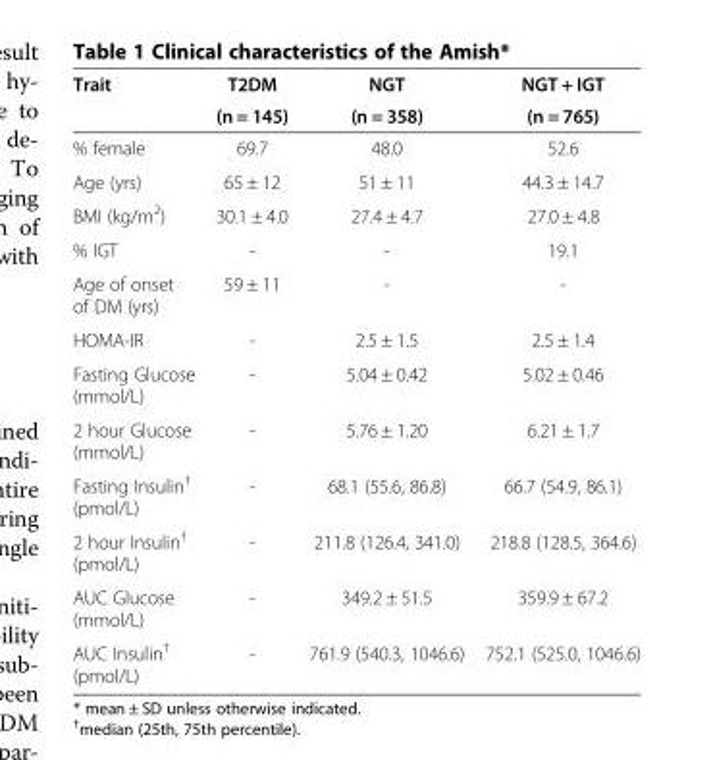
<table><thead><tr><td rowspan="2">Trait</td><td rowspan="2">T2DM (n = 145)</td><td rowspan="2">NGT (n = 358)</td><td rowspan="2">NGT + IGT (n = 765)</td></tr><tr></tr></thead><tbody><tr><td>% female</td><td>69.7</td><td>48.0</td><td>52.6</td></tr><tr><td>Age (yrs)</td><td>65 ± 12</td><td>51 ± 11</td><td>44.3 ± 14.7</td></tr><tr><td>BMI (kg/m<sup>2</sup>)</td><td>30.1 ± 4.0</td><td>27.4 ± 4.7</td><td>27.0 ± 4.8</td></tr><tr><td>% IGT</td><td>-</td><td>-</td><td>19.1</td></tr><tr><td>Age of onset of DM (yrs)</td><td>59 ± 11</td><td>-</td><td>-</td></tr><tr><td>HOMA-IR</td><td>-</td><td>2.5 ± 1.5</td><td>2.5 ± 1.4</td></tr><tr><td>Fasting Glucose (mmol/L)</td><td>-</td><td>5.04 ± 0.42</td><td>5.02 ± 0.46</td></tr><tr><td>2 hour Glucose (mmol/L)</td><td>-</td><td>5.76 ± 1.20</td><td>6.21 ± 1.7</td></tr><tr><td>Fasting Insulin<sup>†</sup> (pmol/L)</td><td>-</td><td>68.1 (55.6, 86.8)</td><td>66.7 (54.9, 86.1)</td></tr><tr><td>2 hour Insulin<sup>†</sup> (pmol/L)</td><td>-</td><td>211.8 (126.4, 341.0)</td><td>218.8 (128.5, 364.6)</td></tr><tr><td>AUC Glucose (mmol/L)</td><td>-</td><td>349.2 ± 51.5</td><td>359.9 ± 67.2</td></tr><tr><td>AUC Insulin<sup>†</sup> (pmol/L)</td><td>-</td><td>761.9 (540.3, 1046.6)</td><td>752.1 (525.0, 1046.6)</td></tr></tbody></table>